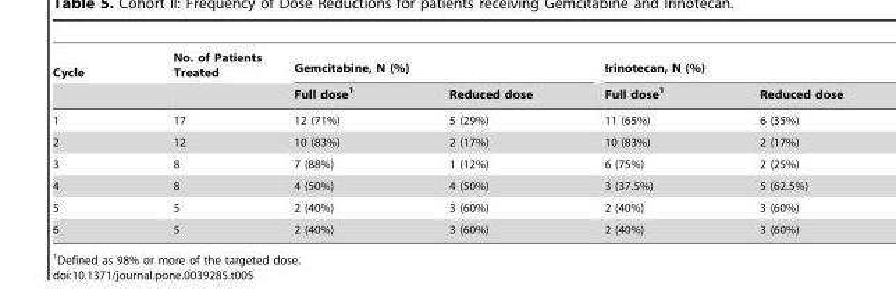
<table><thead><tr><td rowspan="2">Cycle</td><td rowspan="2">No. of Patients Treated</td><td colspan="2">Gemcitabine, N (%)</td><td colspan="2">Irinotecan, N (%)</td></tr><tr><td>Full dose<sup>1</sup></td><td>Reduced dose</td><td>Full dose<sup>1</sup></td><td>Reduced dose</td></tr></thead><tbody><tr><td>1</td><td>17</td><td>12 (71%)</td><td>5 (29%)</td><td>11 (65%)</td><td>6 (35%)</td></tr><tr><td>2</td><td>12</td><td>10 (83%)</td><td>2 (17%)</td><td>10 (83%)</td><td>2 (17%)</td></tr><tr><td>3</td><td>8</td><td>7 (88%)</td><td>1 (12%)</td><td>6 (75%)</td><td>2 (25%)</td></tr><tr><td>4</td><td>8</td><td>4 (50%)</td><td>4 (50%)</td><td>3 (37.5%)</td><td>5 (62.5%)</td></tr><tr><td>5</td><td>5</td><td>2 (40%)</td><td>3 (60%)</td><td>2 (40%)</td><td>3 (60%)</td></tr><tr><td>6</td><td>5</td><td>2 (40%)</td><td>3 (60%)</td><td>2 (40%)</td><td>3 (60%)</td></tr></tbody></table>